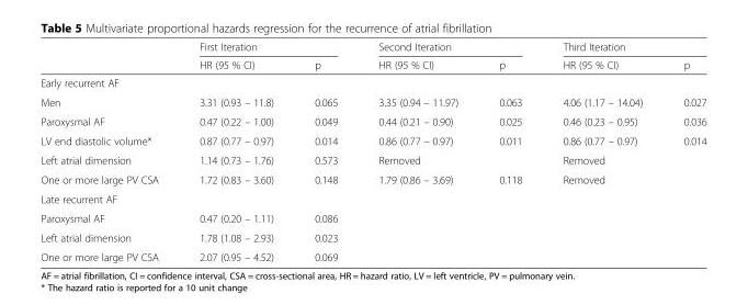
<table><thead><tr><td rowspan="2"></td><td colspan="2">First Iteration</td><td colspan="2">Second Iteration</td><td colspan="2">Third Iteration</td></tr><tr><td>HR (95 % CI)</td><td>p</td><td>HR (95 % CI)</td><td>p</td><td>HR (95 % CI)</td><td>p</td></tr></thead><tbody><tr><td colspan="7">Early recurrent AF</td></tr><tr><td>Men</td><td>3.31 (0.93 – 11.8)</td><td>0.065</td><td>3.35 (0.94 – 11.97)</td><td>0.063</td><td>4.06 (1.17 – 14.04)</td><td>0.027</td></tr><tr><td>Paroxysmal AF</td><td>0.47 (0.22 – 1.00)</td><td>0.049</td><td>0.44 (0.21 – 0.90)</td><td>0.025</td><td>0.46 (0.23 – 0.95)</td><td>0.036</td></tr><tr><td>LV end diastolic volume*</td><td>0.87 (0.77 – 0.97)</td><td>0.014</td><td>0.86 (0.77 – 0.97)</td><td>0.011</td><td>0.86 (0.77 – 0.97)</td><td>0.014</td></tr><tr><td>Left atrial dimension</td><td>1.14 (0.73 – 1.76)</td><td>0.573</td><td>Removed</td><td></td><td>Removed</td><td></td></tr><tr><td>One or more large PV CSA</td><td>1.72 (0.83 – 3.60)</td><td>0.148</td><td>1.79 (0.86 – 3.69)</td><td>0.118</td><td>Removed</td><td></td></tr><tr><td colspan="7">Late recurrent AF</td></tr><tr><td>Paroxysmal AF</td><td>0.47 (0.20 – 1.11)</td><td>0.086</td><td></td><td></td><td></td><td></td></tr><tr><td>Left atrial dimension</td><td>1.78 (1.08 – 2.93)</td><td>0.023</td><td></td><td></td><td></td><td></td></tr><tr><td>One or more large PV CSA</td><td>2.07 (0.95 – 4.52)</td><td>0.069</td><td></td><td></td><td></td><td></td></tr></tbody></table>